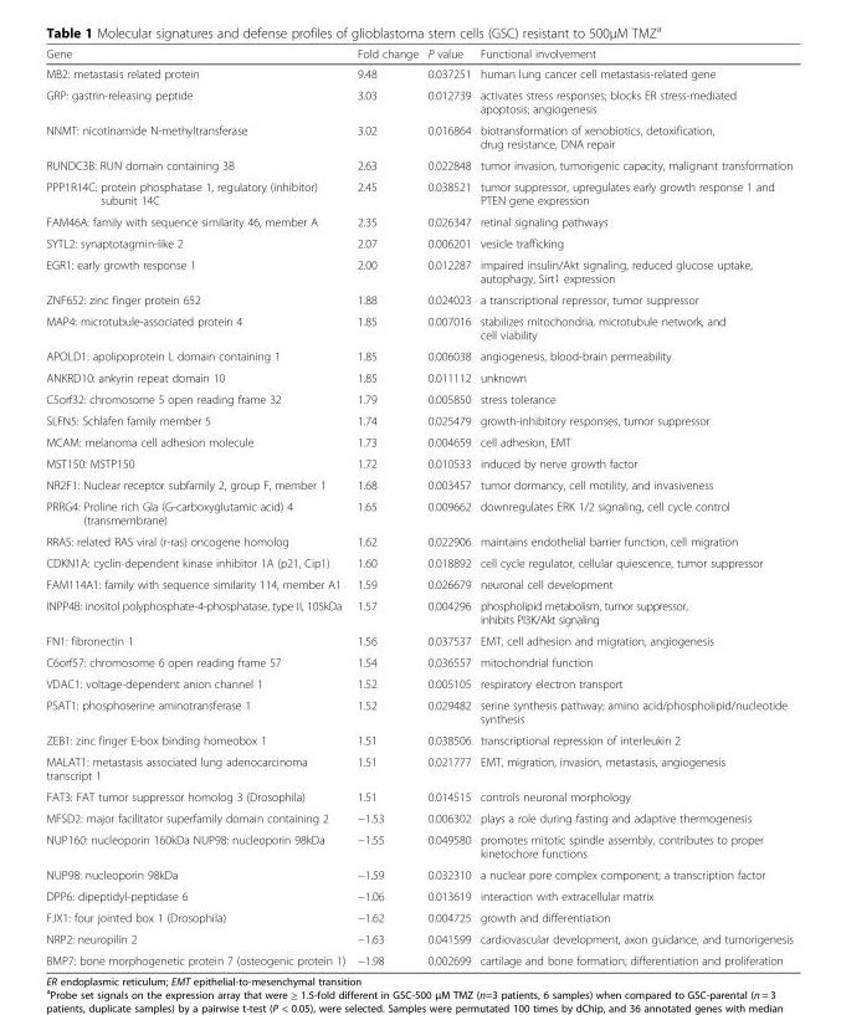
<table><thead><tr><td>Gene</td><td>Fold change</td><td>P value</td><td>Functional involvement</td></tr></thead><tbody><tr><td>MB2: metastasis related protein</td><td>9.48</td><td>0.037251</td><td>human lung cancer cell metastasis-related gene</td></tr><tr><td>GRP: gastrin-releasing peptide</td><td>3.03</td><td>0.012739</td><td>activates stress responses; blocks ER stress-mediated apoptosis; angiogenesis</td></tr><tr><td>NNMT: nicotinamide N-methyltransferase</td><td>3.02</td><td>0.016864</td><td>biotransformation of xenobiotics, detoxification, drug resistance, DNA repair</td></tr><tr><td>RUNDC3B: RUN domain containing 3B</td><td>2.63</td><td>0.022848</td><td>tumor invasion, tumorigenic capacity, malignant transformation</td></tr><tr><td>PPP1R14C: protein phosphatase 1, regulatory (inhibitor) subunit 14C</td><td>2.45</td><td>0.038521</td><td>tumor suppressor, upregulates early growth response 1 and PTEN gene expression</td></tr><tr><td>FAM46A: family with sequence similarity 46, member A</td><td>2.35</td><td>0.026347</td><td>retinal signaling pathways</td></tr><tr><td>SYTL2: synaptotagmin-like 2</td><td>2.07</td><td>0.006201</td><td>vesicle trafficking</td></tr><tr><td>EGR1: early growth response 1</td><td>2.00</td><td>0.012287</td><td>impaired insulin/Akt signaling, reduced glucose uptake, autophagy, Sirt1 expression</td></tr><tr><td>ZNF652: zinc finger protein 652</td><td>1.88</td><td>0.024023</td><td>a transcriptional repressor, tumor suppressor</td></tr><tr><td>MAP4: microtubule-associated protein 4</td><td>1.85</td><td>0.007016</td><td>stabilizes mitochondria, microtubule network, and cell viability</td></tr><tr><td>APOLD1: apolipoprotein L domain containing 1</td><td>1.85</td><td>0.006038</td><td>angiogenesis, blood-brain permeability</td></tr><tr><td>ANKRD10: ankyrin repeat domain 10</td><td>1.85</td><td>0.011112</td><td>unknown</td></tr><tr><td>C5orf32: chromosome 5 open reading frame 32</td><td>1.79</td><td>0.005850</td><td>stress tolerance</td></tr><tr><td>SLFN5: Schlafen family member 5</td><td>1.74</td><td>0.025479</td><td>growth-inhibitory responses, tumor suppressor</td></tr><tr><td>MCAM: melanoma cell adhesion molecule</td><td>1.73</td><td>0.004659</td><td>cell adhesion, EMT</td></tr><tr><td>MST150: MSTP150</td><td>1.72</td><td>0.010533</td><td>induced by nerve growth factor</td></tr><tr><td>NR2F1: Nuclear receptor subfamily 2, group F, member 1</td><td>1.68</td><td>0.003457</td><td>tumor dormancy, cell motility, and invasiveness</td></tr><tr><td>PRRG4: Proline rich Gla (G-carboxyglutamic acid) 4 (transmembrane)</td><td>1.65</td><td>0.009662</td><td>downregulates ERK 1/2 signaling, cell cycle control</td></tr><tr><td>RRAS: related RAS viral (r-ras) oncogene homolog</td><td>1.62</td><td>0.022906</td><td>maintains endothelial barrier function, cell migration</td></tr><tr><td>CDKN1A: cyclin-dependent kinase inhibitor 1A (p21, Cip1)</td><td>1.60</td><td>0.018892</td><td>cell cycle regulator, cellular quiescence, tumor suppressor</td></tr><tr><td>FAM114A1: family with sequence similarity 114, member A1</td><td>1.59</td><td>0.026679</td><td>neuronal cell development</td></tr><tr><td>INPP4B: inositol polyphosphate-4-phosphatase, type II, 105kDa</td><td>1.57</td><td>0.004296</td><td>phospholipid metabolism, tumor suppressor, inhibits PI3K/Akt signaling</td></tr><tr><td>FN1: fibronectin 1</td><td>1.56</td><td>0.037537</td><td>EMT, cell adhesion and migration, angiogenesis</td></tr><tr><td>C6orf57: chromosome 6 open reading frame 57</td><td>1.54</td><td>0.036557</td><td>mitochondrial function</td></tr><tr><td>VDAC1: voltage-dependent anion channel 1</td><td>1.52</td><td>0.005105</td><td>respiratory electron transport</td></tr><tr><td>PSAT1: phosphoserine aminotransferase 1</td><td>1.52</td><td>0.029482</td><td>serine synthesis pathway; amino acid/phospholipid/nucleotide synthesis</td></tr><tr><td>ZEB1: zinc finger E-box binding homeobox 1</td><td>1.51</td><td>0.038506</td><td>transcriptional repression of interleukin 2</td></tr><tr><td>MALAT1: metastasis associated lung adenocarcinoma transcript 1</td><td>1.51</td><td>0.021777</td><td>EMT, migration, invasion, metastasis, angiogenesis</td></tr><tr><td>FAT3: FAT tumor suppressor homolog 3 (Drosophila)</td><td>1.51</td><td>0.014515</td><td>controls neuronal morphology</td></tr><tr><td>MFSD2: major facilitator superfamily domain containing 2</td><td>−1.53</td><td>0.006302</td><td>plays a role during fasting and adaptive thermogenesis</td></tr><tr><td>NUP160: nucleoporin 160kDa NUP98: nucleoporin 98kDa</td><td>−1.55</td><td>0.049580</td><td>promotes mitotic spindle assembly, contributes to proper kinetochore functions</td></tr><tr><td>NUP98: nucleoporin 98kDa</td><td>−1.59</td><td>0.032310</td><td>a nuclear pore complex component; a transcription factor</td></tr><tr><td>DPP6: dipeptidyl-peptidase 6</td><td>−1.06</td><td>0.013619</td><td>interaction with extracellular matrix</td></tr><tr><td>FJX1: four jointed box 1 (Drosophila)</td><td>−1.62</td><td>0.004725</td><td>growth and differentiation</td></tr><tr><td>NRP2: neuropilin 2</td><td>−1.63</td><td>0.041599</td><td>cardiovascular development, axon guidance, and tumorigenesis</td></tr><tr><td>BMP7: bone morphogenetic protein 7 (osteogenic protein 1)</td><td>−1.98</td><td>0.002699</td><td>cartilage and bone formation; differentiation and proliferation</td></tr></tbody></table>